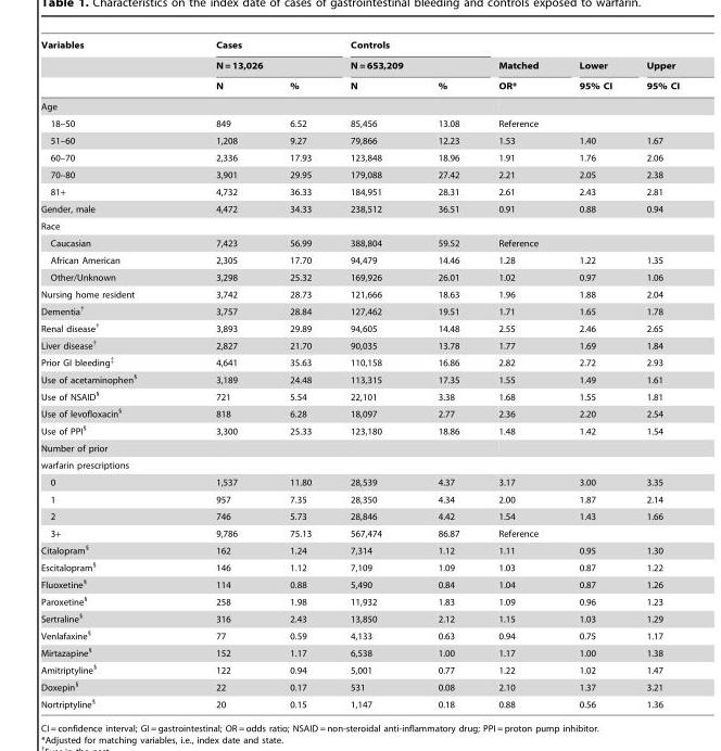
<table><thead><tr><td rowspan="3">Variables</td><td rowspan="2" colspan="2">Cases N = 13,026</td><td rowspan="2" colspan="2">Controls N = 653,209</td><td rowspan="3">Matched OR*</td><td rowspan="3">Lower 95% CI</td><td rowspan="3">Upper 95% CI</td></tr><tr></tr><tr><td>N</td><td>%</td><td>N</td><td>%</td></tr></thead><tbody><tr><td colspan="8">Age</td></tr><tr><td>18–50</td><td>849</td><td>6.52</td><td>85,456</td><td>13.08</td><td colspan="3">Reference</td></tr><tr><td>51–60</td><td>1,208</td><td>9.27</td><td>79,866</td><td>12.23</td><td>1.53</td><td>1.40</td><td>1.67</td></tr><tr><td>60–70</td><td>2,336</td><td>17.93</td><td>123,848</td><td>18.96</td><td>1.91</td><td>1.76</td><td>2.06</td></tr><tr><td>70–80</td><td>3,901</td><td>29.95</td><td>179,088</td><td>27.42</td><td>2.21</td><td>2.05</td><td>2.38</td></tr><tr><td>81+</td><td>4,732</td><td>36.33</td><td>184,951</td><td>28.31</td><td>2.61</td><td>2.43</td><td>2.81</td></tr><tr><td>Gender, male</td><td>4,472</td><td>34.33</td><td>238,512</td><td>36.51</td><td>0.91</td><td>0.88</td><td>0.94</td></tr><tr><td colspan="8">Race</td></tr><tr><td>Caucasian</td><td>7,423</td><td>56.99</td><td>388,804</td><td>59.52</td><td colspan="3">Reference</td></tr><tr><td>African American</td><td>2,305</td><td>17.70</td><td>94,479</td><td>14.46</td><td>1.28</td><td>1.22</td><td>1.35</td></tr><tr><td>Other/Unknown</td><td>3,298</td><td>25.32</td><td>169,926</td><td>26.01</td><td>1.02</td><td>0.97</td><td>1.06</td></tr><tr><td>Nursing home resident</td><td>3,742</td><td>28.73</td><td>121,666</td><td>18.63</td><td>1.96</td><td>1.88</td><td>2.04</td></tr><tr><td>Dementia†</td><td>3,757</td><td>28.84</td><td>127,462</td><td>19.51</td><td>1.71</td><td>1.65</td><td>1.78</td></tr><tr><td>Renal disease†</td><td>3,893</td><td>29.89</td><td>94,605</td><td>14.48</td><td>2.55</td><td>2.46</td><td>2.65</td></tr><tr><td>Liver disease†</td><td>2,827</td><td>21.70</td><td>90,035</td><td>13.78</td><td>1.77</td><td>1.69</td><td>1.84</td></tr><tr><td>Prior GI bleeding‡</td><td>4,641</td><td>35.63</td><td>110,158</td><td>16.86</td><td>2.82</td><td>2.72</td><td>2.93</td></tr><tr><td>Use of acetaminophen§</td><td>3,189</td><td>24.48</td><td>113,315</td><td>17.35</td><td>1.55</td><td>1.49</td><td>1.61</td></tr><tr><td>Use of NSAID§</td><td>721</td><td>5.54</td><td>22,101</td><td>3.38</td><td>1.68</td><td>1.55</td><td>1.81</td></tr><tr><td>Use of levofloxacin§</td><td>818</td><td>6.28</td><td>18,097</td><td>2.77</td><td>2.36</td><td>2.20</td><td>2.54</td></tr><tr><td>Use of PPI§</td><td>3,300</td><td>25.33</td><td>123,180</td><td>18.86</td><td>1.48</td><td>1.42</td><td>1.54</td></tr><tr><td colspan="8">Number of prior</td></tr><tr><td colspan="8">warfarin prescriptions</td></tr><tr><td>0</td><td>1,537</td><td>11.80</td><td>28,539</td><td>4.37</td><td>3.17</td><td>3.00</td><td>3.35</td></tr><tr><td>1</td><td>957</td><td>7.35</td><td>28,350</td><td>4.34</td><td>2.00</td><td>1.87</td><td>2.14</td></tr><tr><td>2</td><td>746</td><td>5.73</td><td>28,846</td><td>4.42</td><td>1.54</td><td>1.43</td><td>1.66</td></tr><tr><td>3+</td><td>9,786</td><td>75.13</td><td>567,474</td><td>86.87</td><td colspan="3">Reference</td></tr><tr><td>Citalopram§</td><td>162</td><td>1.24</td><td>7,314</td><td>1.12</td><td>1.11</td><td>0.95</td><td>1.30</td></tr><tr><td>Escitalopram§</td><td>146</td><td>1.12</td><td>7,109</td><td>1.09</td><td>1.03</td><td>0.87</td><td>1.22</td></tr><tr><td>Fluoxetine§</td><td>114</td><td>0.88</td><td>5,490</td><td>0.84</td><td>1.04</td><td>0.87</td><td>1.26</td></tr><tr><td>Paroxetine§</td><td>258</td><td>1.98</td><td>11,932</td><td>1.83</td><td>1.09</td><td>0.96</td><td>1.23</td></tr><tr><td>Sertraline§</td><td>316</td><td>2.43</td><td>13,850</td><td>2.12</td><td>1.15</td><td>1.03</td><td>1.29</td></tr><tr><td>Venlafaxine§</td><td>77</td><td>0.59</td><td>4,133</td><td>0.63</td><td>0.94</td><td>0.75</td><td>1.17</td></tr><tr><td>Mirtazapine§</td><td>152</td><td>1.17</td><td>6,538</td><td>1.00</td><td>1.17</td><td>1.00</td><td>1.38</td></tr><tr><td>Amitriptyline§</td><td>122</td><td>0.94</td><td>5,001</td><td>0.77</td><td>1.22</td><td>1.02</td><td>1.47</td></tr><tr><td>Doxepin§</td><td>22</td><td>0.17</td><td>531</td><td>0.08</td><td>2.10</td><td>1.37</td><td>3.21</td></tr><tr><td>Nortriptyline§</td><td>20</td><td>0.15</td><td>1,147</td><td>0.18</td><td>0.88</td><td>0.56</td><td>1.36</td></tr></tbody></table>